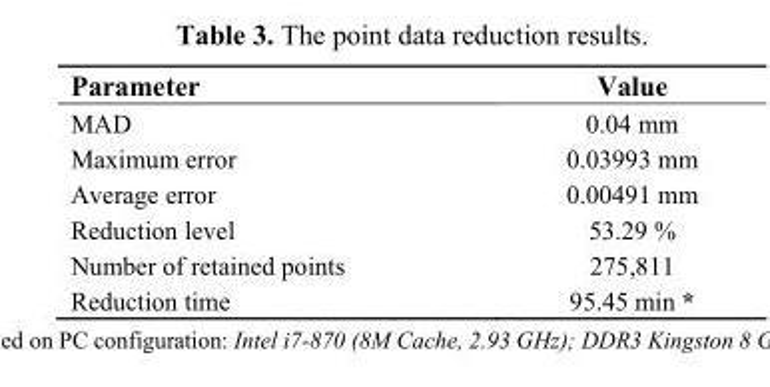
<table><thead><tr><td>Parameter</td><td>Value</td></tr></thead><tbody><tr><td>MAD</td><td>0.04 mm</td></tr><tr><td>Maximum error</td><td>0.03993 mm</td></tr><tr><td>Average error</td><td>0.00491 mm</td></tr><tr><td>Reduction level</td><td>53.29 %</td></tr><tr><td>Number of retained points</td><td>275,811</td></tr><tr><td>Reduction time</td><td>95.45 min *</td></tr></tbody></table>